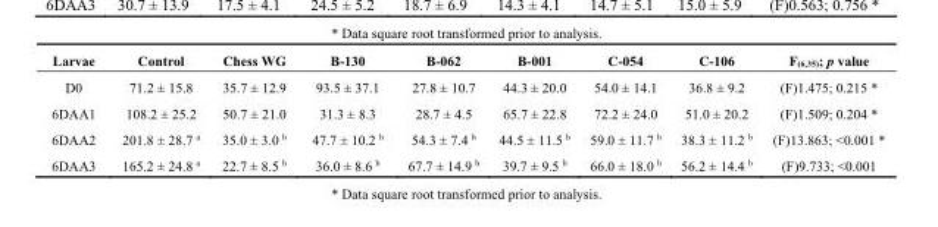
<table><thead><tr><td>Larvae</td><td>Control</td><td>Chess WG</td><td>B-130</td><td>B-062</td><td>B-001</td><td>C-054</td><td>C-106</td><td>F<sub>(6,35)</sub>; p value</td></tr></thead><tbody><tr><td>D0</td><td>71.2 ± 15.8</td><td>35.7 ± 12.9</td><td>93.5 ± 37.1</td><td>27.8 ± 10.7</td><td>44.3 ± 20.0</td><td>54.0 ± 14.1</td><td>36.8 ± 9.2</td><td>(F)1.475; 0.215 *</td></tr><tr><td>6DAA1</td><td>108.2 ± 25.2</td><td>50.7 ± 21.0</td><td>31.3 ± 8.3</td><td>28.7 ± 4.5</td><td>65.7 ± 22.8</td><td>72.2 ± 24.0</td><td>51.0 ± 20.2</td><td>(F)1.509; 0.204 *</td></tr><tr><td>6DAA2</td><td>201.8 ± 28.7 <sup>a</sup></td><td>35.0 ± 3.0 <sup>b</sup></td><td>47.7 ± 10.2 <sup>b</sup></td><td>54.3 ± 7.4 <sup>b</sup></td><td>44.5 ± 11.5 <sup>b</sup></td><td>59.0 ± 11.7 <sup>b</sup></td><td>38.3 ± 11.2 <sup>b</sup></td><td>(F)13.863; &lt;0.001 *</td></tr><tr><td>6DAA3</td><td>165.2 ± 24.8 <sup>a</sup></td><td>22.7 ± 8.5 <sup>b</sup></td><td>36.0 ± 8.6 <sup>b</sup></td><td>67.7 ± 14.9 <sup>b</sup></td><td>39.7 ± 9.5 <sup>b</sup></td><td>66.0 ± 18.0 <sup>b</sup></td><td>56.2 ± 14.4 <sup>b</sup></td><td>(F)9.733; &lt;0.001</td></tr></tbody></table>